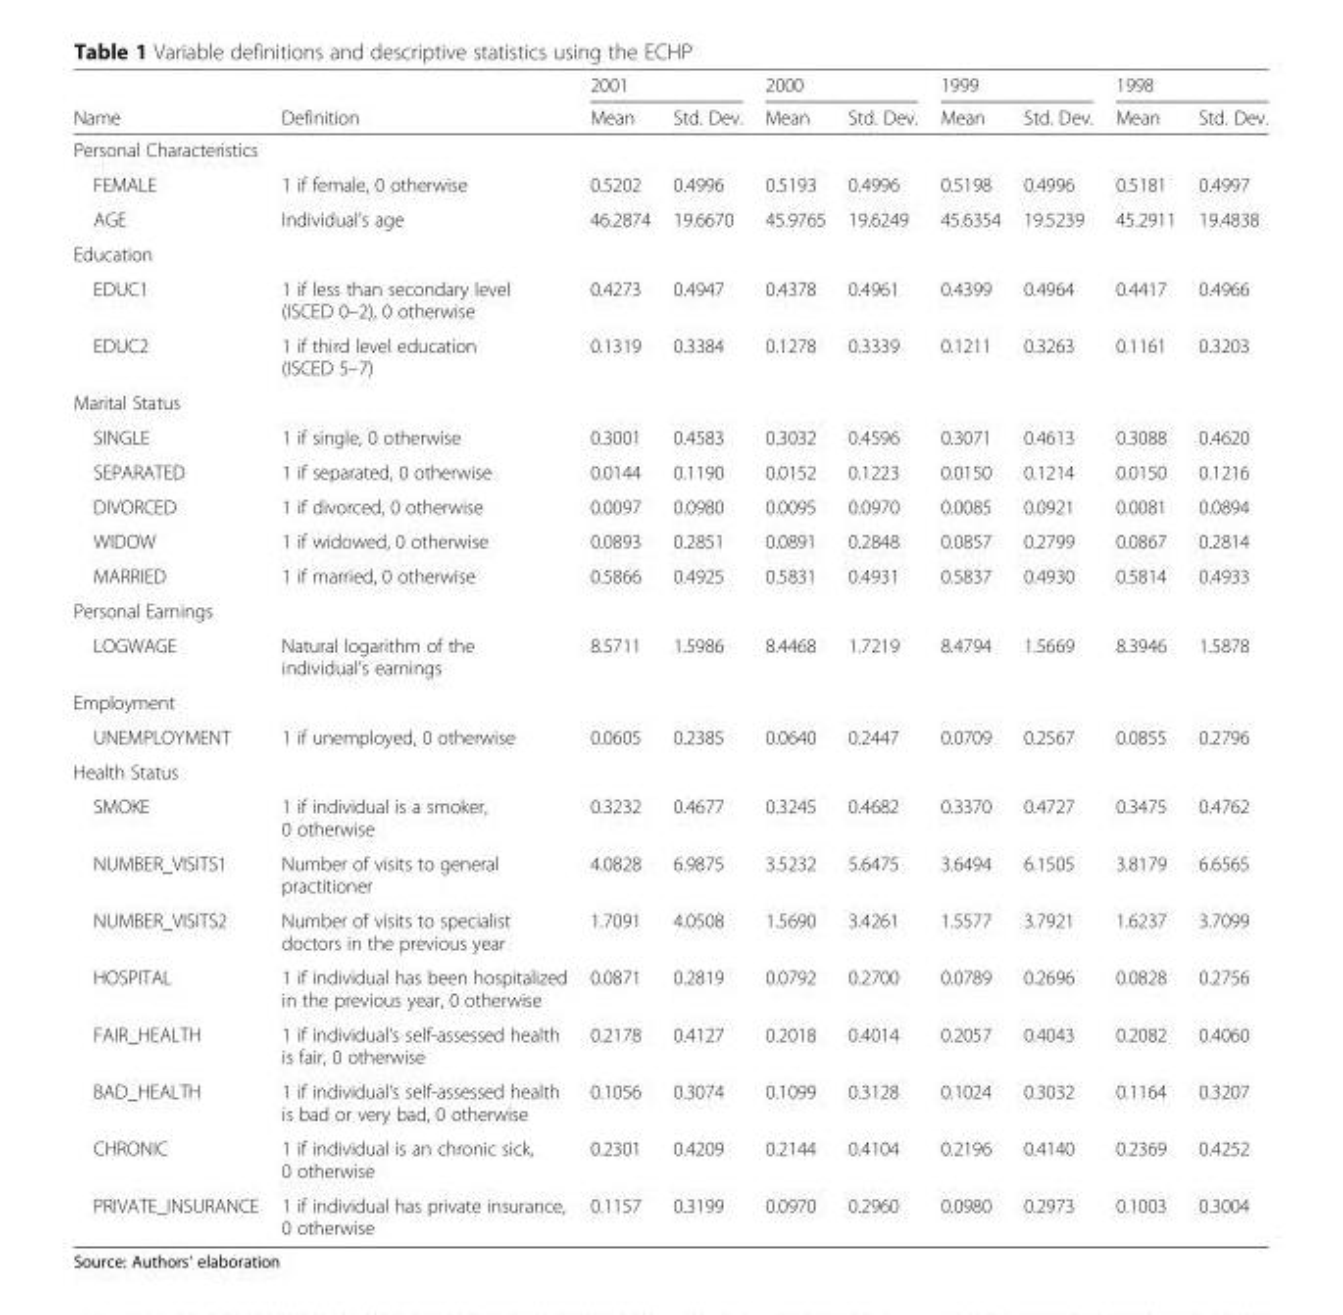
<table><thead><tr><td rowspan="2">Name</td><td rowspan="2">Definition</td><td colspan="2">2001</td><td colspan="2">2000</td><td colspan="2">1999</td><td colspan="2">1998</td></tr><tr><td>Mean</td><td>Std. Dev.</td><td>Mean</td><td>Std. Dev.</td><td>Mean</td><td>Std. Dev.</td><td>Mean</td><td>Std. Dev.</td></tr></thead><tbody><tr><td colspan="10">Personal Characteristics</td></tr><tr><td>FEMALE</td><td>1 if female, 0 otherwise</td><td>0.5202</td><td>0.4996</td><td>0.5193</td><td>0.4996</td><td>0.5198</td><td>0.4996</td><td>0.5181</td><td>0.4997</td></tr><tr><td>AGE</td><td>Individual’s age</td><td>46.2874</td><td>19.6670</td><td>45.9765</td><td>19.6249</td><td>45.6354</td><td>19.5239</td><td>45.2911</td><td>19.4838</td></tr><tr><td colspan="10">Education</td></tr><tr><td>EDUC1</td><td>1 if less than secondary level (ISCED 0–2), 0 otherwise</td><td>0.4273</td><td>0.4947</td><td>0.4378</td><td>0.4961</td><td>0.4399</td><td>0.4964</td><td>0.4417</td><td>0.4966</td></tr><tr><td>EDUC2</td><td>1 if third level education (ISCED 5–7)</td><td>0.1319</td><td>0.3384</td><td>0.1278</td><td>0.3339</td><td>0.1211</td><td>0.3263</td><td>0.1161</td><td>0.3203</td></tr><tr><td colspan="10">Marital Status</td></tr><tr><td>SINGLE</td><td>1 if single, 0 otherwise</td><td>0.3001</td><td>0.4583</td><td>0.3032</td><td>0.4596</td><td>0.3071</td><td>0.4613</td><td>0.3088</td><td>0.4620</td></tr><tr><td>SEPARATED</td><td>1 if separated, 0 otherwise</td><td>0.0144</td><td>0.1190</td><td>0.0152</td><td>0.1223</td><td>0.0150</td><td>0.1214</td><td>0.0150</td><td>0.1216</td></tr><tr><td>DIVORCED</td><td>1 if divorced, 0 otherwise</td><td>0.0097</td><td>0.0980</td><td>0.0095</td><td>0.0970</td><td>0.0085</td><td>0.0921</td><td>0.0081</td><td>0.0894</td></tr><tr><td>WIDOW</td><td>1 if widowed, 0 otherwise</td><td>0.0893</td><td>0.2851</td><td>0.0891</td><td>0.2848</td><td>0.0857</td><td>0.2799</td><td>0.0867</td><td>0.2814</td></tr><tr><td>MARRIED</td><td>1 if married, 0 otherwise</td><td>0.5866</td><td>0.4925</td><td>0.5831</td><td>0.4931</td><td>0.5837</td><td>0.4930</td><td>0.5814</td><td>0.4933</td></tr><tr><td colspan="10">Personal Earnings</td></tr><tr><td>LOGWAGE</td><td>Natural logarithm of the individual’s earnings</td><td>8.5711</td><td>1.5986</td><td>8.4468</td><td>1.7219</td><td>8.4794</td><td>1.5669</td><td>8.3946</td><td>1.5878</td></tr><tr><td colspan="10">Employment</td></tr><tr><td>UNEMPLOYMENT</td><td>1 if unemployed, 0 otherwise</td><td>0.0605</td><td>0.2385</td><td>0.0640</td><td>0.2447</td><td>0.0709</td><td>0.2567</td><td>0.0855</td><td>0.2796</td></tr><tr><td colspan="10">Health Status</td></tr><tr><td>SMOKE</td><td>1 if individual is a smoker, 0 otherwise</td><td>0.3232</td><td>0.4677</td><td>0.3245</td><td>0.4682</td><td>0.3370</td><td>0.4727</td><td>0.3475</td><td>0.4762</td></tr><tr><td>NUMBER_VISITS1</td><td>Number of visits to general practitioner</td><td>4.0828</td><td>6.9875</td><td>3.5232</td><td>5.6475</td><td>3.6494</td><td>6.1505</td><td>3.8179</td><td>6.6565</td></tr><tr><td>NUMBER_VISITS2</td><td>Number of visits to specialist doctors in the previous year</td><td>1.7091</td><td>4.0508</td><td>1.5690</td><td>3.4261</td><td>1.5577</td><td>3.7921</td><td>1.6237</td><td>3.7099</td></tr><tr><td>HOSPITAL</td><td>1 if individual has been hospitalized in the previous year, 0 otherwise</td><td>0.0871</td><td>0.2819</td><td>0.0792</td><td>0.2700</td><td>0.0789</td><td>0.2696</td><td>0.0828</td><td>0.2756</td></tr><tr><td>FAIR_HEALTH</td><td>1 if individual’s self-assessed health is fair, 0 otherwise</td><td>0.2178</td><td>0.4127</td><td>0.2018</td><td>0.4014</td><td>0.2057</td><td>0.4043</td><td>0.2082</td><td>0.4060</td></tr><tr><td>BAD_HEALTH</td><td>1 if individual’s self-assessed health is bad or very bad, 0 otherwise</td><td>0.1056</td><td>0.3074</td><td>0.1099</td><td>0.3128</td><td>0.1024</td><td>0.3032</td><td>0.1164</td><td>0.3207</td></tr><tr><td>CHRONIC</td><td>1 if individual is an chronic sick, 0 otherwise</td><td>0.2301</td><td>0.4209</td><td>0.2144</td><td>0.4104</td><td>0.2196</td><td>0.4140</td><td>0.2369</td><td>0.4252</td></tr><tr><td>PRIVATE_INSURANCE</td><td>1 if individual has private insurance, 0 otherwise</td><td>0.1157</td><td>0.3199</td><td>0.0970</td><td>0.2960</td><td>0.0980</td><td>0.2973</td><td>0.1003</td><td>0.3004</td></tr></tbody></table>